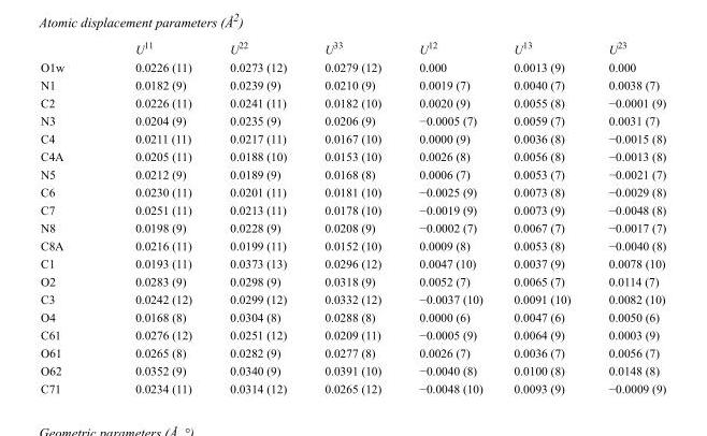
<table><thead><tr><td></td><td>U<sup>11</sup></td><td>U<sup>22</sup></td><td>U<sup>33</sup></td><td>U<sup>12</sup></td><td>U<sup>13</sup></td><td>U<sup>23</sup></td></tr></thead><tbody><tr><td>O1w</td><td>0.0226 (11)</td><td>0.0273 (12)</td><td>0.0279 (12)</td><td>0.000</td><td>0.0013 (9)</td><td>0.000</td></tr><tr><td>N1</td><td>0.0182 (9)</td><td>0.0239 (9)</td><td>0.0210 (9)</td><td>0.0019 (7)</td><td>0.0040 (7)</td><td>0.0038 (7)</td></tr><tr><td>C2</td><td>0.0226 (11)</td><td>0.0241 (11)</td><td>0.0182 (10)</td><td>0.0020 (9)</td><td>0.0055 (8)</td><td>−0.0001 (9)</td></tr><tr><td>N3</td><td>0.0204 (9)</td><td>0.0235 (9)</td><td>0.0206 (9)</td><td>−0.0005 (7)</td><td>0.0059 (7)</td><td>0.0031 (7)</td></tr><tr><td>C4</td><td>0.0211 (11)</td><td>0.0217 (11)</td><td>0.0167 (10)</td><td>0.0000 (9)</td><td>0.0036 (8)</td><td>−0.0015 (8)</td></tr><tr><td>C4A</td><td>0.0205 (11)</td><td>0.0188 (10)</td><td>0.0153 (10)</td><td>0.0026 (8)</td><td>0.0056 (8)</td><td>−0.0013 (8)</td></tr><tr><td>N5</td><td>0.0212 (9)</td><td>0.0189 (9)</td><td>0.0168 (8)</td><td>0.0006 (7)</td><td>0.0053 (7)</td><td>−0.0021 (7)</td></tr><tr><td>C6</td><td>0.0230 (11)</td><td>0.0201 (11)</td><td>0.0181 (10)</td><td>−0.0025 (9)</td><td>0.0073 (8)</td><td>−0.0029 (8)</td></tr><tr><td>C7</td><td>0.0251 (11)</td><td>0.0213 (11)</td><td>0.0178 (10)</td><td>−0.0019 (9)</td><td>0.0073 (9)</td><td>−0.0048 (8)</td></tr><tr><td>N8</td><td>0.0198 (9)</td><td>0.0228 (9)</td><td>0.0208 (9)</td><td>−0.0002 (7)</td><td>0.0067 (7)</td><td>−0.0017 (7)</td></tr><tr><td>C8A</td><td>0.0216 (11)</td><td>0.0199 (11)</td><td>0.0152 (10)</td><td>0.0009 (8)</td><td>0.0053 (8)</td><td>−0.0040 (8)</td></tr><tr><td>C1</td><td>0.0193 (11)</td><td>0.0373 (13)</td><td>0.0296 (12)</td><td>0.0047 (10)</td><td>0.0037 (9)</td><td>0.0078 (10)</td></tr><tr><td>O2</td><td>0.0283 (9)</td><td>0.0298 (9)</td><td>0.0318 (9)</td><td>0.0052 (7)</td><td>0.0065 (7)</td><td>0.0114 (7)</td></tr><tr><td>C3</td><td>0.0242 (12)</td><td>0.0299 (12)</td><td>0.0332 (12)</td><td>−0.0037 (10)</td><td>0.0091 (10)</td><td>0.0082 (10)</td></tr><tr><td>O4</td><td>0.0168 (8)</td><td>0.0304 (8)</td><td>0.0288 (8)</td><td>0.0000 (6)</td><td>0.0047 (6)</td><td>0.0050 (6)</td></tr><tr><td>C61</td><td>0.0276 (12)</td><td>0.0251 (12)</td><td>0.0209 (11)</td><td>−0.0005 (9)</td><td>0.0064 (9)</td><td>0.0003 (9)</td></tr><tr><td>O61</td><td>0.0265 (8)</td><td>0.0282 (9)</td><td>0.0277 (8)</td><td>0.0026 (7)</td><td>0.0036 (7)</td><td>0.0056 (7)</td></tr><tr><td>O62</td><td>0.0352 (9)</td><td>0.0340 (9)</td><td>0.0391 (10)</td><td>−0.0040 (8)</td><td>0.0100 (8)</td><td>0.0148 (8)</td></tr><tr><td>C71</td><td>0.0234 (11)</td><td>0.0314 (12)</td><td>0.0265 (12)</td><td>−0.0048 (10)</td><td>0.0093 (9)</td><td>−0.0009 (9)</td></tr></tbody></table>